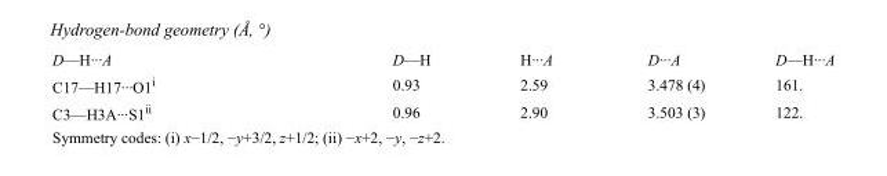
<table><tbody><tr><td>D—H···A</td><td>D—H</td><td>H···A</td><td>D···A</td><td>D—H···A</td></tr><tr><td>C17—H17···O1<sup>i</sup></td><td>0.93</td><td>2.59</td><td>3.478 (4)</td><td>161.</td></tr><tr><td>C3—H3A···S1<sup>ii</sup></td><td>0.96</td><td>2.90</td><td>3.503 (3)</td><td>122.</td></tr></tbody></table>